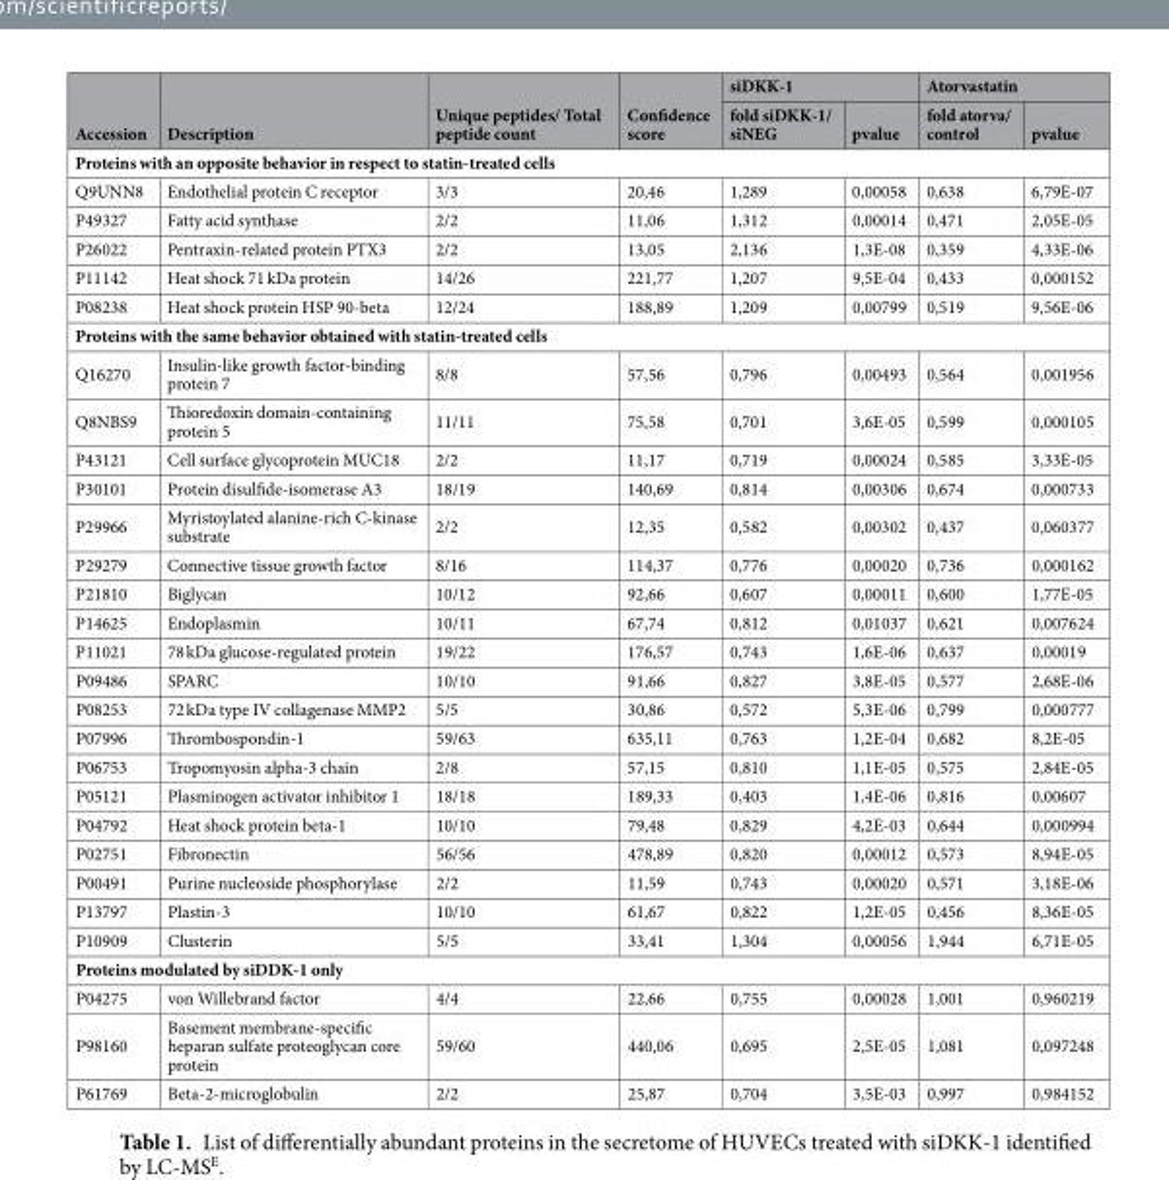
<table><thead><tr><td rowspan="2">Accession</td><td rowspan="2">Description</td><td rowspan="2">Unique peptides/ Total peptide count</td><td rowspan="2">Confidence score</td><td colspan="2">siDKK-1</td><td colspan="2">Atorvastatin</td></tr><tr><td>fold siDKK-1/ siNEG</td><td>pvalue</td><td>fold atorva/ control</td><td>pvalue</td></tr></thead><tbody><tr><td colspan="8">Proteins with an opposite behavior in respect to statin-treated cells</td></tr><tr><td>Q9UNN8</td><td>Endothelial protein C receptor</td><td>3/3</td><td>20,46</td><td>1,289</td><td>0,00058</td><td>0,638</td><td>6,79E-07</td></tr><tr><td>P49327</td><td>Fatty acid synthase</td><td>2/2</td><td>11,06</td><td>1,312</td><td>0,00014</td><td>0,471</td><td>2,05E-05</td></tr><tr><td>P26022</td><td>Pentraxin-related protein PTX3</td><td>2/2</td><td>13,05</td><td>2,136</td><td>1,3E-08</td><td>0,359</td><td>4,33E-06</td></tr><tr><td>P11142</td><td>Heat shock 71 kDa protein</td><td>14/26</td><td>221,77</td><td>1,207</td><td>9,5E-04</td><td>0,433</td><td>0,000152</td></tr><tr><td>P08238</td><td>Heat shock protein HSP 90-beta</td><td>12/24</td><td>188,89</td><td>1,209</td><td>0,00799</td><td>0,519</td><td>9,56E-06</td></tr><tr><td colspan="8">Proteins with the same behavior obtained with statin-treated cells</td></tr><tr><td>Q16270</td><td>Insulin-like growth factor-binding protein 7</td><td>8/8</td><td>57,56</td><td>0,796</td><td>0,00493</td><td>0,564</td><td>0,001956</td></tr><tr><td>Q8NBS9</td><td>Thioredoxin domain-containing protein 5</td><td>11/11</td><td>75,58</td><td>0,701</td><td>3,6E-05</td><td>0,599</td><td>0,000105</td></tr><tr><td>P43121</td><td>Cell surface glycoprotein MUC18</td><td>2/2</td><td>11,17</td><td>0,719</td><td>0,00024</td><td>0,585</td><td>3,33E-05</td></tr><tr><td>P30101</td><td>Protein disulfide-isomerase A3</td><td>18/19</td><td>140,69</td><td>0,814</td><td>0,00306</td><td>0,674</td><td>0,000733</td></tr><tr><td>P29966</td><td>Myristoylated alanine-rich C-kinase substrate</td><td>2/2</td><td>12,35</td><td>0,582</td><td>0,00302</td><td>0,437</td><td>0,060377</td></tr><tr><td>P29279</td><td>Connective tissue growth factor</td><td>8/16</td><td>114,37</td><td>0,776</td><td>0,00020</td><td>0,736</td><td>0,000162</td></tr><tr><td>P21810</td><td>Biglycan</td><td>10/12</td><td>92,66</td><td>0,607</td><td>0,00011</td><td>0,600</td><td>1,77E-05</td></tr><tr><td>P14625</td><td>Endoplasmin</td><td>10/11</td><td>67,74</td><td>0,812</td><td>0,01037</td><td>0,621</td><td>0,007624</td></tr><tr><td>P11021</td><td>78 kDa glucose-regulated protein</td><td>19/22</td><td>176,57</td><td>0,743</td><td>1,6E-06</td><td>0,637</td><td>0,00019</td></tr><tr><td>P09486</td><td>SPARC</td><td>10/10</td><td>91,66</td><td>0,827</td><td>3,8E-05</td><td>0,577</td><td>2,68E-06</td></tr><tr><td>P08253</td><td>72 kDa type IV collagenase MMP2</td><td>5/5</td><td>30,86</td><td>0,572</td><td>5,3E-06</td><td>0,799</td><td>0,000777</td></tr><tr><td>P07996</td><td>Thrombospondin-1</td><td>59/63</td><td>635,11</td><td>0,763</td><td>1,2E-04</td><td>0,682</td><td>8,2E-05</td></tr><tr><td>P06753</td><td>Tropomyosin alpha-3 chain</td><td>2/8</td><td>57,15</td><td>0,810</td><td>1,1E-05</td><td>0,575</td><td>2,84E-05</td></tr><tr><td>P05121</td><td>Plasminogen activator inhibitor 1</td><td>18/18</td><td>189,33</td><td>0,403</td><td>1,4E-06</td><td>0,816</td><td>0,00607</td></tr><tr><td>P04792</td><td>Heat shock protein beta-1</td><td>10/10</td><td>79,48</td><td>0,829</td><td>4,2E-03</td><td>0,644</td><td>0,000994</td></tr><tr><td>P02751</td><td>Fibronectin</td><td>56/56</td><td>478,89</td><td>0,820</td><td>0,00012</td><td>0,573</td><td>8,94E-05</td></tr><tr><td>P00491</td><td>Purine nucleoside phosphorylase</td><td>2/2</td><td>11,59</td><td>0,743</td><td>0,00020</td><td>0,571</td><td>3,18E-06</td></tr><tr><td>P13797</td><td>Plastin-3</td><td>10/10</td><td>61,67</td><td>0,822</td><td>1,2E-05</td><td>0,456</td><td>8,36E-05</td></tr><tr><td>P10909</td><td>Clusterin</td><td>5/5</td><td>33,41</td><td>1,304</td><td>0,00056</td><td>1,944</td><td>6,71E-05</td></tr><tr><td colspan="8">Proteins modulated by siDDK-1 only</td></tr><tr><td>P04275</td><td>von Willebrand factor</td><td>4/4</td><td>22,66</td><td>0,755</td><td>0,00028</td><td>1,001</td><td>0,960219</td></tr><tr><td>P98160</td><td>Basement membrane-specific heparan sulfate proteoglycan core protein</td><td>59/60</td><td>440,06</td><td>0,695</td><td>2,5E-05</td><td>1,081</td><td>0,097248</td></tr><tr><td>P61769</td><td>Beta-2-microglobulin</td><td>2/2</td><td>25,87</td><td>0,704</td><td>3,5E-03</td><td>0,997</td><td>0,984152</td></tr></tbody></table>